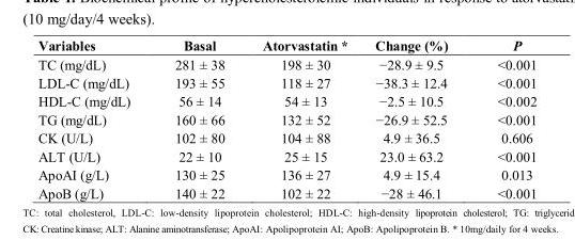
<table><thead><tr><td>Variables</td><td>Basal</td><td>Atorvastatin *</td><td>Change (%)</td><td>P</td></tr></thead><tbody><tr><td>TC (mg/dL)</td><td>281 ± 38</td><td>198 ± 30</td><td>−28.9 ± 9.5</td><td>&lt;0.001</td></tr><tr><td>LDL-C (mg/dL)</td><td>193 ± 55</td><td>118 ± 27</td><td>−38.3 ± 12.4</td><td>&lt;0.001</td></tr><tr><td>HDL-C (mg/dL)</td><td>56 ± 14</td><td>54 ± 13</td><td>−2.5 ± 10.5</td><td>&lt;0.002</td></tr><tr><td>TG (mg/dL)</td><td>160 ± 66</td><td>132 ± 52</td><td>−26.9 ± 52.5</td><td>&lt;0.001</td></tr><tr><td>CK (U/L)</td><td>102 ± 80</td><td>104 ± 88</td><td>4.9 ± 36.5</td><td>0.606</td></tr><tr><td>ALT (U/L)</td><td>22 ± 10</td><td>25 ± 15</td><td>23.0 ± 63.2</td><td>&lt;0.001</td></tr><tr><td>ApoAI (g/L)</td><td>130 ± 25</td><td>136 ± 27</td><td>4.9 ± 15.4</td><td>0.013</td></tr><tr><td>ApoB (g/L)</td><td>140 ± 22</td><td>102 ± 22</td><td>−28 ± 46.1</td><td>&lt;0.001</td></tr></tbody></table>